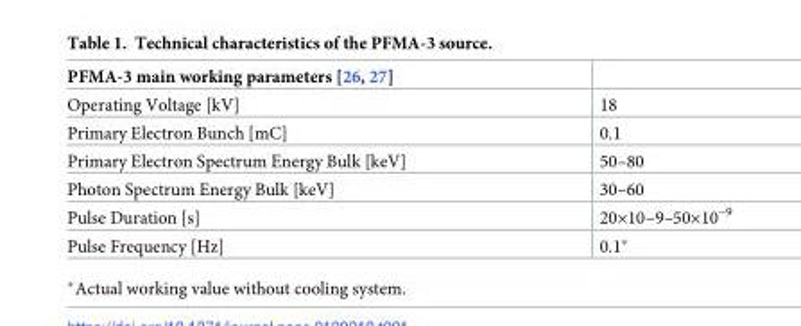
<table><thead><tr><td>PFMA-3 main working parameters [26, 27]</td><td></td></tr></thead><tbody><tr><td>Operating Voltage [kV]</td><td>18</td></tr><tr><td>Primary Electron Bunch [mC]</td><td>0.1</td></tr><tr><td>Primary Electron Spectrum Energy Bulk [keV]</td><td>50–80</td></tr><tr><td>Photon Spectrum Energy Bulk [keV]</td><td>30–60</td></tr><tr><td>Pulse Duration [s]</td><td>20×10−9–50×10−9</td></tr><tr><td>Pulse Frequency [Hz]</td><td>0.1*</td></tr></tbody></table>